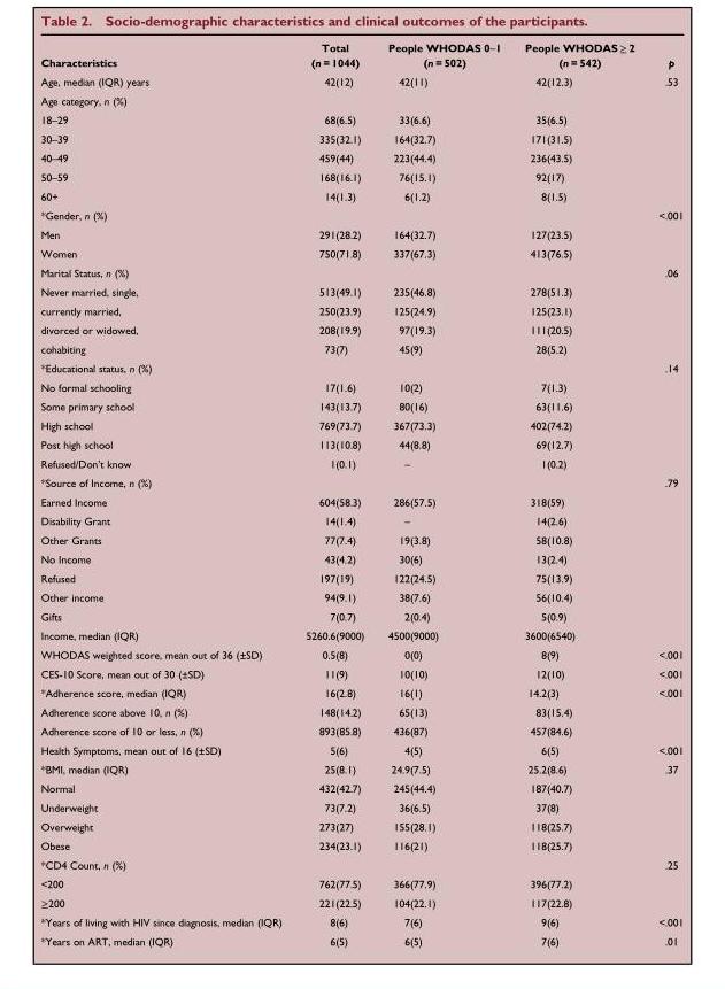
<table><thead><tr><td>Characteristics</td><td>Total (n = 1044)</td><td>People WHODAS 0–1 (n = 502)</td><td>People WHODAS ≥ 2 (n = 542)</td><td>p</td></tr></thead><tbody><tr><td>Age, median (IQR) years</td><td>42(12)</td><td>42(11)</td><td>42(12.3)</td><td>.53</td></tr><tr><td colspan="5">Age category, n (%)</td></tr><tr><td>18–29</td><td>68(6.5)</td><td>33(6.6)</td><td>35(6.5)</td><td></td></tr><tr><td>30–39</td><td>335(32.1)</td><td>164(32.7)</td><td>171(31.5)</td><td></td></tr><tr><td>40–49</td><td>459(44)</td><td>223(44.4)</td><td>236(43.5)</td><td></td></tr><tr><td>50–59</td><td>168(16.1)</td><td>76(15.1)</td><td>92(17)</td><td></td></tr><tr><td>60+</td><td>14(1.3)</td><td>6(1.2)</td><td>8(1.5)</td><td></td></tr><tr><td>*Gender, n (%)</td><td></td><td></td><td></td><td>&lt;.001</td></tr><tr><td>Men</td><td>291(28.2)</td><td>164(32.7)</td><td>127(23.5)</td><td></td></tr><tr><td>Women</td><td>750(71.8)</td><td>337(67.3)</td><td>413(76.5)</td><td></td></tr><tr><td>Marital Status, n (%)</td><td></td><td></td><td></td><td>.06</td></tr><tr><td>Never married, single,</td><td>513(49.1)</td><td>235(46.8)</td><td>278(51.3)</td><td></td></tr><tr><td>currently married,</td><td>250(23.9)</td><td>125(24.9)</td><td>125(23.1)</td><td></td></tr><tr><td>divorced or widowed,</td><td>208(19.9)</td><td>97(19.3)</td><td>111(20.5)</td><td></td></tr><tr><td>cohabiting</td><td>73(7)</td><td>45(9)</td><td>28(5.2)</td><td></td></tr><tr><td>*Educational status, n (%)</td><td></td><td></td><td></td><td>.14</td></tr><tr><td>No formal schooling</td><td>17(1.6)</td><td>10(2)</td><td>7(1.3)</td><td></td></tr><tr><td>Some primary school</td><td>143(13.7)</td><td>80(16)</td><td>63(11.6)</td><td></td></tr><tr><td>High school</td><td>769(73.7)</td><td>367(73.3)</td><td>402(74.2)</td><td></td></tr><tr><td>Post high school</td><td>113(10.8)</td><td>44(8.8)</td><td>69(12.7)</td><td></td></tr><tr><td>Refused/Don’t know</td><td>1(0.1)</td><td>–</td><td>1(0.2)</td><td></td></tr><tr><td>*Source of Income, n (%)</td><td></td><td></td><td></td><td>.79</td></tr><tr><td>Earned Income</td><td>604(58.3)</td><td>286(57.5)</td><td>318(59)</td><td></td></tr><tr><td>Disability Grant</td><td>14(1.4)</td><td>–</td><td>14(2.6)</td><td></td></tr><tr><td>Other Grants</td><td>77(7.4)</td><td>19(3.8)</td><td>58(10.8)</td><td></td></tr><tr><td>No Income</td><td>43(4.2)</td><td>30(6)</td><td>13(2.4)</td><td></td></tr><tr><td>Refused</td><td>197(19)</td><td>122(24.5)</td><td>75(13.9)</td><td></td></tr><tr><td>Other income</td><td>94(9.1)</td><td>38(7.6)</td><td>56(10.4)</td><td></td></tr><tr><td>Gifts</td><td>7(0.7)</td><td>2(0.4)</td><td>5(0.9)</td><td></td></tr><tr><td>Income, median (IQR)</td><td>5260.6(9000)</td><td>4500(9000)</td><td>3600(6540)</td><td></td></tr><tr><td>WHODAS weighted score, mean out of 36 (±SD)</td><td>0.5(8)</td><td>0(0)</td><td>8(9)</td><td>&lt;.001</td></tr><tr><td>CES-10 Score, mean out of 30 (±SD)</td><td>11(9)</td><td>10(10)</td><td>12(10)</td><td>&lt;.001</td></tr><tr><td>*Adherence score, median (IQR)</td><td>16(2.8)</td><td>16(1)</td><td>14.2(3)</td><td>&lt;.001</td></tr><tr><td>Adherence score above 10, n (%)</td><td>148(14.2)</td><td>65(13)</td><td>83(15.4)</td><td></td></tr><tr><td>Adherence score of 10 or less, n (%)</td><td>893(85.8)</td><td>436(87)</td><td>457(84.6)</td><td></td></tr><tr><td>Health Symptoms, mean out of 16 (±SD)</td><td>5(6)</td><td>4(5)</td><td>6(5)</td><td>&lt;.001</td></tr><tr><td>*BMI, median (IQR)</td><td>25(8.1)</td><td>24.9(7.5)</td><td>25.2(8.6)</td><td>.37</td></tr><tr><td>Normal</td><td>432(42.7)</td><td>245(44.4)</td><td>187(40.7)</td><td></td></tr><tr><td>Underweight</td><td>73(7.2)</td><td>36(6.5)</td><td>37(8)</td><td></td></tr><tr><td>Overweight</td><td>273(27)</td><td>155(28.1)</td><td>118(25.7)</td><td></td></tr><tr><td>Obese</td><td>234(23.1)</td><td>116(21)</td><td>118(25.7)</td><td></td></tr><tr><td>*CD4 Count, n (%)</td><td></td><td></td><td></td><td>.25</td></tr><tr><td>&lt;200</td><td>762(77.5)</td><td>366(77.9)</td><td>396(77.2)</td><td></td></tr><tr><td>≥200</td><td>221(22.5)</td><td>104(22.1)</td><td>117(22.8)</td><td></td></tr><tr><td>*Years of living with HIV since diagnosis, median (IQR)</td><td>8(6)</td><td>7(6)</td><td>9(6)</td><td>&lt;.001</td></tr><tr><td>*Years on ART, median (IQR)</td><td>6(5)</td><td>6(5)</td><td>7(6)</td><td>.01</td></tr></tbody></table>